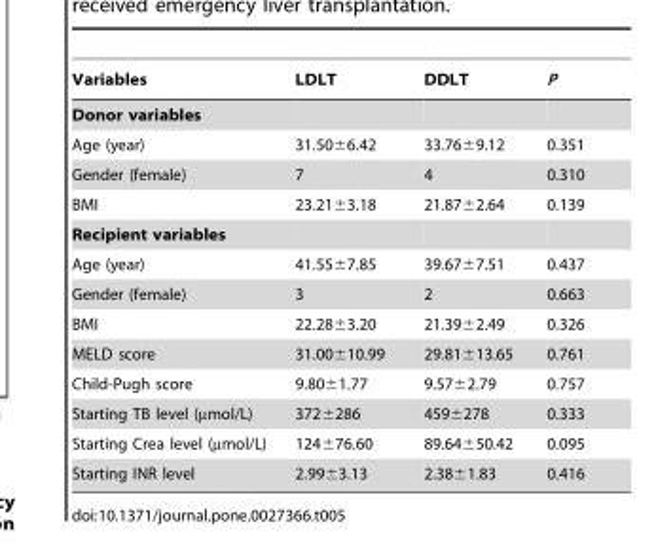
<table><thead><tr><td>Variables</td><td>LDLT</td><td>DDLT</td><td>P</td></tr></thead><tbody><tr><td colspan="4">Donor variables</td></tr><tr><td>Age (year)</td><td>31.50±6.42</td><td>33.76±9.12</td><td>0.351</td></tr><tr><td>Gender (female)</td><td>7</td><td>4</td><td>0.310</td></tr><tr><td>BMI</td><td>23.21±3.18</td><td>21.87±2.64</td><td>0.139</td></tr><tr><td colspan="4">Recipient variables</td></tr><tr><td>Age (year)</td><td>41.55±7.85</td><td>39.67±7.51</td><td>0.437</td></tr><tr><td>Gender (female)</td><td>3</td><td>2</td><td>0.663</td></tr><tr><td>BMI</td><td>22.28±3.20</td><td>21.39±2.49</td><td>0.326</td></tr><tr><td>MELD score</td><td>31.00±10.99</td><td>29.81±13.65</td><td>0.761</td></tr><tr><td>Child-Pugh score</td><td>9.80±1.77</td><td>9.57±2.79</td><td>0.757</td></tr><tr><td>Starting TB level (µmol/L)</td><td>372±286</td><td>459±278</td><td>0.333</td></tr><tr><td>Starting Crea level (µmol/L)</td><td>124±76.60</td><td>89.64±50.42</td><td>0.095</td></tr><tr><td>Starting INR level</td><td>2.99±3.13</td><td>2.38±1.83</td><td>0.416</td></tr></tbody></table>